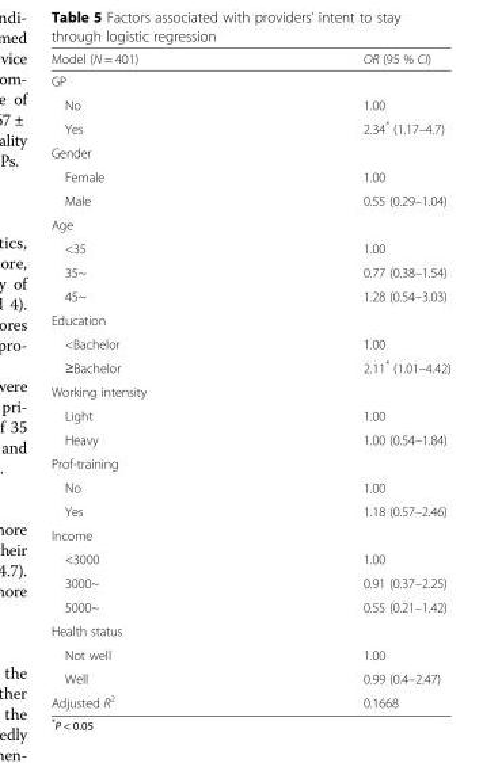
<table><thead><tr><td>Model (N = 401)</td><td>OR (95 % CI)</td></tr></thead><tbody><tr><td colspan="2">GP</td></tr><tr><td>No</td><td>1.00</td></tr><tr><td>Yes</td><td>2.34* (1.17–4.7)</td></tr><tr><td colspan="2">Gender</td></tr><tr><td>Female</td><td>1.00</td></tr><tr><td>Male</td><td>0.55 (0.29–1.04)</td></tr><tr><td colspan="2">Age</td></tr><tr><td>&lt;35</td><td>1.00</td></tr><tr><td>35~</td><td>0.77 (0.38–1.54)</td></tr><tr><td>45~</td><td>1.28 (0.54–3.03)</td></tr><tr><td colspan="2">Education</td></tr><tr><td>&lt;Bachelor</td><td>1.00</td></tr><tr><td>≥Bachelor</td><td>2.11* (1.01–4.42)</td></tr><tr><td colspan="2">Working intensity</td></tr><tr><td>Light</td><td>1.00</td></tr><tr><td>Heavy</td><td>1.00 (0.54–1.84)</td></tr><tr><td colspan="2">Prof-training</td></tr><tr><td>No</td><td>1.00</td></tr><tr><td>Yes</td><td>1.18 (0.57–2.46)</td></tr><tr><td colspan="2">Income</td></tr><tr><td>&lt;3000</td><td>1.00</td></tr><tr><td>3000~</td><td>0.91 (0.37–2.25)</td></tr><tr><td>5000~</td><td>0.55 (0.21–1.42)</td></tr><tr><td colspan="2">Health status</td></tr><tr><td>Not well</td><td>1.00</td></tr><tr><td>Well</td><td>0.99 (0.4–2.47)</td></tr><tr><td>Adjusted R<sup>2</sup></td><td>0.1668</td></tr></tbody></table>